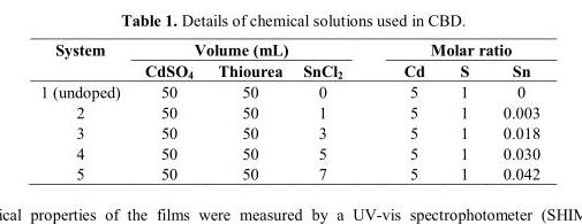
<table><thead><tr><td rowspan="2">System</td><td colspan="3">Volume (mL)</td><td colspan="3">Molar ratio</td></tr><tr><td>CdSO<sub>4</sub></td><td>Thiourea</td><td>SnCl<sub>2</sub></td><td>Cd</td><td>S</td><td>Sn</td></tr></thead><tbody><tr><td>1 (undoped)</td><td>50</td><td>50</td><td>0</td><td>5</td><td>1</td><td>0</td></tr><tr><td>2</td><td>50</td><td>50</td><td>1</td><td>5</td><td>1</td><td>0.003</td></tr><tr><td>3</td><td>50</td><td>50</td><td>3</td><td>5</td><td>1</td><td>0.018</td></tr><tr><td>4</td><td>50</td><td>50</td><td>5</td><td>5</td><td>1</td><td>0.030</td></tr><tr><td>5</td><td>50</td><td>50</td><td>7</td><td>5</td><td>1</td><td>0.042</td></tr></tbody></table>